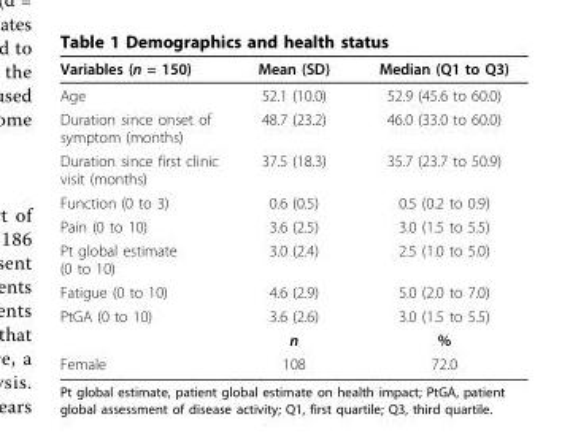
<table><thead><tr><td>Variables (n = 150)</td><td>Mean (SD)</td><td>Median (Q1 to Q3)</td></tr></thead><tbody><tr><td>Age</td><td>52.1 (10.0)</td><td>52.9 (45.6 to 60.0)</td></tr><tr><td>Duration since onset of symptom (months)</td><td>48.7 (23.2)</td><td>46.0 (33.0 to 60.0)</td></tr><tr><td>Duration since first clinic visit (months)</td><td>37.5 (18.3)</td><td>35.7 (23.7 to 50.9)</td></tr><tr><td>Function (0 to 3)</td><td>0.6 (0.5)</td><td>0.5 (0.2 to 0.9)</td></tr><tr><td>Pain (0 to 10)</td><td>3.6 (2.5)</td><td>3.0 (1.5 to 5.5)</td></tr><tr><td>Pt global estimate (0 to 10)</td><td>3.0 (2.4)</td><td>2.5 (1.0 to 5.0)</td></tr><tr><td>Fatigue (0 to 10)</td><td>4.6 (2.9)</td><td>5.0 (2.0 to 7.0)</td></tr><tr><td rowspan="2">PtGA (0 to 10)</td><td>3.6 (2.6)</td><td>3.0 (1.5 to 5.5)</td></tr><tr><td>n</td><td>%</td></tr><tr><td>Female</td><td>108</td><td>72.0</td></tr></tbody></table>